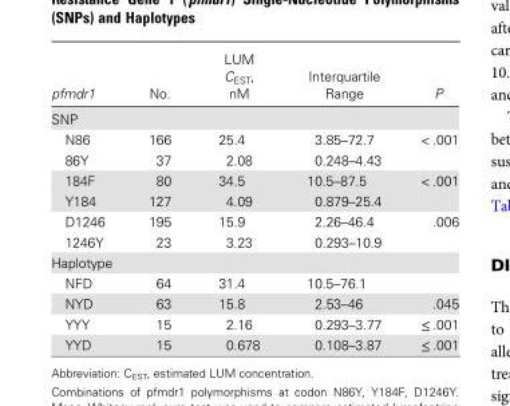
<table><thead><tr><td>pfmdr1</td><td>No.</td><td>LUM C<sub>EST</sub>, nM</td><td>Interquartile Range</td><td>P</td></tr></thead><tbody><tr><td colspan="5">SNP</td></tr><tr><td>N86</td><td>166</td><td>25.4</td><td>3.85–72.7</td><td rowspan="2">&lt; .001</td></tr><tr><td>86Y</td><td>37</td><td>2.08</td><td>0.248–4.43</td></tr><tr><td>184F</td><td>80</td><td>34.5</td><td>10.5–87.5</td><td rowspan="2">&lt; .001</td></tr><tr><td>Y184</td><td>127</td><td>4.09</td><td>0.879–25.4</td></tr><tr><td>D1246</td><td>195</td><td>15.9</td><td>2.26–46.4</td><td rowspan="2">.006</td></tr><tr><td>1246Y</td><td>23</td><td>3.23</td><td>0.293–10.9</td></tr><tr><td colspan="5">Haplotype</td></tr><tr><td>NFD</td><td>64</td><td>31.4</td><td>10.5–76.1</td><td></td></tr><tr><td>NYD</td><td>63</td><td>15.8</td><td>2.53–46</td><td>.045</td></tr><tr><td>YYY</td><td>15</td><td>2.16</td><td>0.293–3.77</td><td>≤ .001</td></tr><tr><td>YYD</td><td>15</td><td>0.678</td><td>0.108–3.87</td><td>≤ .001</td></tr></tbody></table>